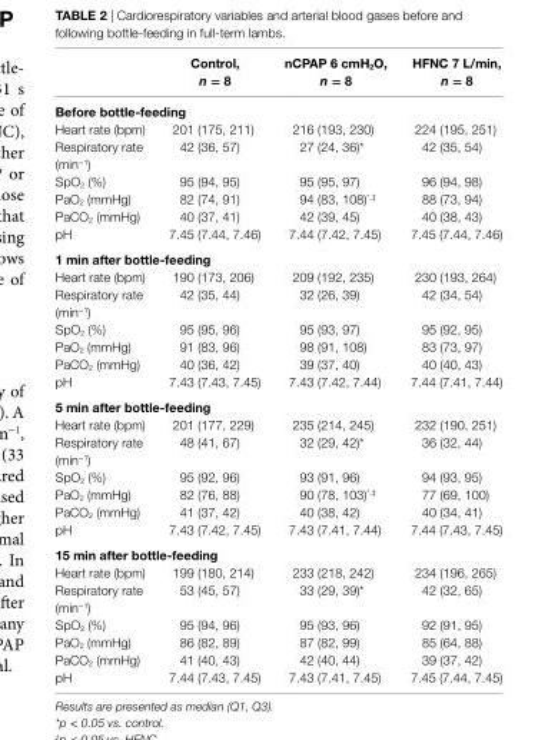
<table><thead><tr><td></td><td>control, n = 8</td><td>ncPaP 6 cmh<sub>2</sub>O, n = 8</td><td>hFnc 7 l/min, n = 8</td></tr></thead><tbody><tr><td colspan="4">Before bottle-feeding</td></tr><tr><td>Heart rate (bpm)</td><td>201 (175, 211)</td><td>216 (193, 230)</td><td>224 (195, 251)</td></tr><tr><td>Respiratory rate (min<sup>−1</sup>)</td><td>42 (36, 57)</td><td>27 (24, 36)*</td><td>42 (35, 54)</td></tr><tr><td>SpO<sub>2</sub> (%)</td><td>95 (94, 95)</td><td>95 (95, 97)</td><td>96 (94, 98)</td></tr><tr><td>PaO<sub>2</sub> (mmHg)</td><td>82 (74, 91)</td><td>94 (83, 108)*<sup>,‡</sup></td><td>88 (73, 94)</td></tr><tr><td>PaCO<sub>2</sub> (mmHg)</td><td>40 (37, 41)</td><td>42 (39, 45)</td><td>40 (38, 43)</td></tr><tr><td>pH</td><td>7.45 (7.44, 7.46)</td><td>7.44 (7.42, 7.45)</td><td>7.45 (7.44, 7.46)</td></tr><tr><td colspan="4">1 min after bottle-feeding</td></tr><tr><td>Heart rate (bpm)</td><td>190 (173, 206)</td><td>209 (192, 235)</td><td>230 (193, 264)</td></tr><tr><td>Respiratory rate (min<sup>−1</sup>)</td><td>42 (35, 44)</td><td>32 (26, 39)</td><td>42 (34, 54)</td></tr><tr><td>SpO<sub>2</sub> (%)</td><td>95 (95, 96)</td><td>95 (93, 97)</td><td>95 (92, 95)</td></tr><tr><td>PaO<sub>2</sub> (mmHg)</td><td>91 (83, 96)</td><td>98 (91, 108)</td><td>83 (73, 97)</td></tr><tr><td>PaCO<sub>2</sub> (mmHg)</td><td>40 (36, 42)</td><td>39 (37, 40)</td><td>40 (40, 43)</td></tr><tr><td>pH</td><td>7.43 (7.43, 7.45)</td><td>7.43 (7.42, 7.44)</td><td>7.44 (7.41, 7.44)</td></tr><tr><td colspan="4">5 min after bottle-feeding</td></tr><tr><td>Heart rate (bpm)</td><td>201 (177, 229)</td><td>235 (214, 245)</td><td>232 (190, 251)</td></tr><tr><td>Respiratory rate (min<sup>−1</sup>)</td><td>48 (41, 67)</td><td>32 (29, 42)*</td><td>36 (32, 44)</td></tr><tr><td>SpO<sub>2</sub> (%)</td><td>95 (92, 96)</td><td>93 (91, 96)</td><td>94 (93, 95)</td></tr><tr><td>PaO<sub>2</sub> (mmHg)</td><td>82 (76, 88)</td><td>90 (78, 103)*<sup>,‡</sup></td><td>77 (69, 100)</td></tr><tr><td>PaCO<sub>2</sub> (mmHg)</td><td>41 (37, 42)</td><td>40 (38, 42)</td><td>40 (34, 41)</td></tr><tr><td>pH</td><td>7.43 (7.42, 7.45)</td><td>7.43 (7.41, 7.44)</td><td>7.44 (7.43, 7.45)</td></tr><tr><td colspan="4">15 min after bottle-feeding</td></tr><tr><td>Heart rate (bpm)</td><td>199 (180, 214)</td><td>233 (218, 242)</td><td>234 (196, 265)</td></tr><tr><td>Respiratory rate (min<sup>−1</sup>)</td><td>53 (45, 57)</td><td>33 (29, 39)*</td><td>42 (32, 65)</td></tr><tr><td>SpO<sub>2</sub> (%)</td><td>95 (94, 96)</td><td>95 (93, 96)</td><td>92 (91, 95)</td></tr><tr><td>PaO<sub>2</sub> (mmHg)</td><td>86 (82, 89)</td><td>87 (82, 99)</td><td>85 (64, 88)</td></tr><tr><td>PaCO<sub>2</sub> (mmHg)</td><td>41 (40, 43)</td><td>42 (40, 44)</td><td>39 (37, 42)</td></tr><tr><td>pH</td><td>7.44 (7.43, 7.45)</td><td>7.43 (7.41, 7.45)</td><td>7.45 (7.44, 7.45)</td></tr></tbody></table>